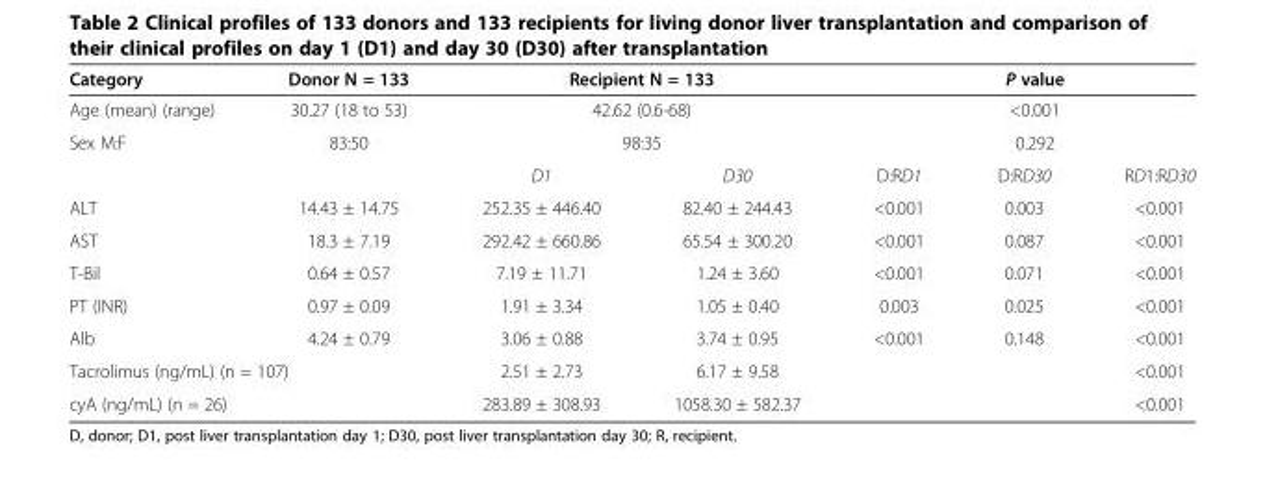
<table><thead><tr><td rowspan="4">Category Age (mean) (range) Sex M:F</td><td rowspan="4">Donor N = 133 30.27 (18 to 53) 83:50</td><td rowspan="3" colspan="2">Recipient N = 133 42.62 (0.6-68) 98:35</td><td rowspan="3" colspan="3">P value &lt;0.001 0.292</td></tr><tr></tr><tr></tr><tr><td>D1</td><td>D30</td><td>D:RD1</td><td>D:RD30</td><td>RD1:RD30</td></tr></thead><tbody><tr><td>ALT</td><td>14.43 ± 14.75</td><td>252.35 ± 446.40</td><td>82.40 ± 244.43</td><td>&lt;0.001</td><td>0.003</td><td>&lt;0.001</td></tr><tr><td>AST</td><td>18.3 ± 7.19</td><td>292.42 ± 660.86</td><td>65.54 ± 300.20</td><td>&lt;0.001</td><td>0.087</td><td>&lt;0.001</td></tr><tr><td>T-Bil</td><td>0.64 ± 0.57</td><td>7.19 ± 11.71</td><td>1.24 ± 3.60</td><td>&lt;0.001</td><td>0.071</td><td>&lt;0.001</td></tr><tr><td>PT (INR)</td><td>0.97 ± 0.09</td><td>1.91 ± 3.34</td><td>1.05 ± 0.40</td><td>0.003</td><td>0.025</td><td>&lt;0.001</td></tr><tr><td>Alb</td><td>4.24 ± 0.79</td><td>3.06 ± 0.88</td><td>3.74 ± 0.95</td><td>&lt;0.001</td><td>0.148</td><td>&lt;0.001</td></tr><tr><td colspan="2">Tacrolimus (ng/mL) (n = 107)</td><td>2.51 ± 2.73</td><td>6.17 ± 9.58</td><td></td><td></td><td>&lt;0.001</td></tr><tr><td colspan="2">cyA (ng/mL) (n = 26)</td><td>283.89 ± 308.93</td><td>1058.30 ± 582.37</td><td></td><td></td><td>&lt;0.001</td></tr></tbody></table>